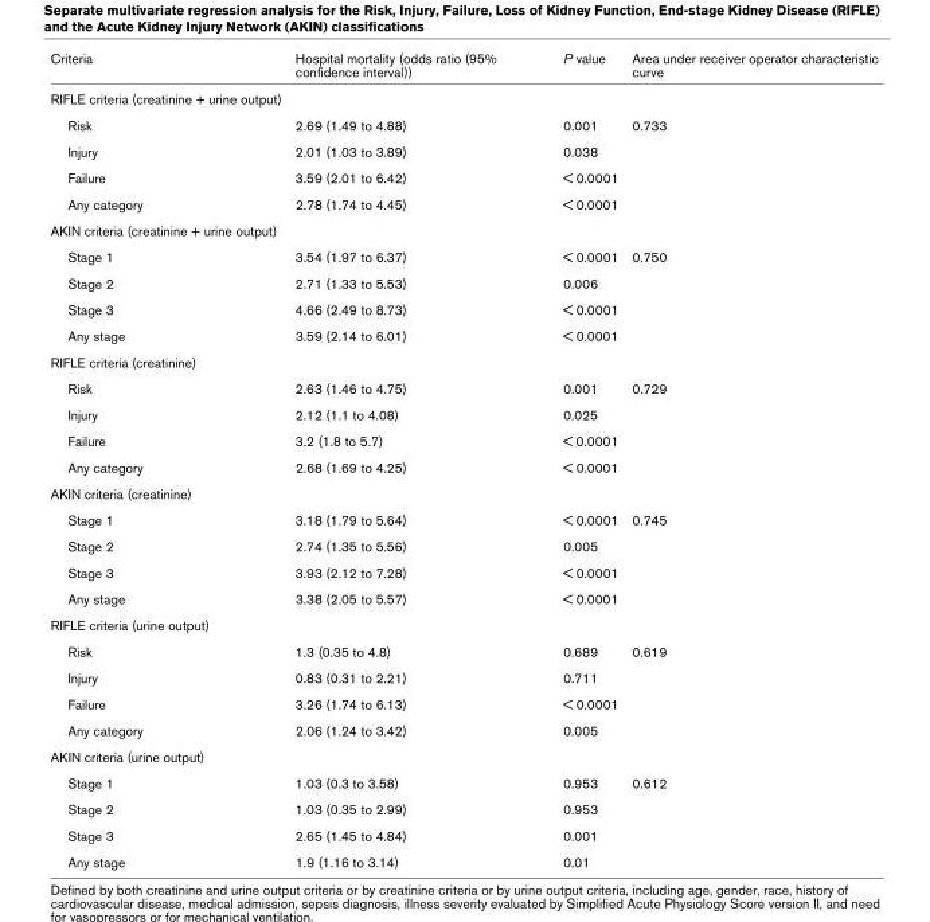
<table><thead><tr><td>Criteria</td><td>Hospital mortality (odds ratio (95% confidence interval))</td><td>P value</td><td>Area under receiver operator characteristic curve</td></tr></thead><tbody><tr><td colspan="4">RIFLE criteria (creatinine + urine output)</td></tr><tr><td>Risk</td><td>2.69 (1.49 to 4.88)</td><td>0.001</td><td>0.733</td></tr><tr><td>Injury</td><td>2.01 (1.03 to 3.89)</td><td>0.038</td><td></td></tr><tr><td>Failure</td><td>3.59 (2.01 to 6.42)</td><td>&lt; 0.0001</td><td></td></tr><tr><td>Any category</td><td>2.78 (1.74 to 4.45)</td><td>&lt; 0.0001</td><td></td></tr><tr><td colspan="4">AKIN criteria (creatinine + urine output)</td></tr><tr><td>Stage 1</td><td>3.54 (1.97 to 6.37)</td><td>&lt; 0.0001</td><td>0.750</td></tr><tr><td>Stage 2</td><td>2.71 (1.33 to 5.53)</td><td>0.006</td><td></td></tr><tr><td>Stage 3</td><td>4.66 (2.49 to 8.73)</td><td>&lt; 0.0001</td><td></td></tr><tr><td>Any stage</td><td>3.59 (2.14 to 6.01)</td><td>&lt; 0.0001</td><td></td></tr><tr><td colspan="4">RIFLE criteria (creatinine)</td></tr><tr><td>Risk</td><td>2.63 (1.46 to 4.75)</td><td>0.001</td><td>0.729</td></tr><tr><td>Injury</td><td>2.12 (1.1 to 4.08)</td><td>0.025</td><td></td></tr><tr><td>Failure</td><td>3.2 (1.8 to 5.7)</td><td>&lt; 0.0001</td><td></td></tr><tr><td>Any category</td><td>2.68 (1.69 to 4.25)</td><td>&lt; 0.0001</td><td></td></tr><tr><td colspan="4">AKIN criteria (creatinine)</td></tr><tr><td>Stage 1</td><td>3.18 (1.79 to 5.64)</td><td>&lt; 0.0001</td><td>0.745</td></tr><tr><td>Stage 2</td><td>2.74 (1.35 to 5.56)</td><td>0.005</td><td></td></tr><tr><td>Stage 3</td><td>3.93 (2.12 to 7.28)</td><td>&lt; 0.0001</td><td></td></tr><tr><td>Any stage</td><td>3.38 (2.05 to 5.57)</td><td>&lt; 0.0001</td><td></td></tr><tr><td colspan="4">RIFLE criteria (urine output)</td></tr><tr><td>Risk</td><td>1.3 (0.35 to 4.8)</td><td>0.689</td><td>0.619</td></tr><tr><td>Injury</td><td>0.83 (0.31 to 2.21)</td><td>0.711</td><td></td></tr><tr><td>Failure</td><td>3.26 (1.74 to 6.13)</td><td>&lt; 0.0001</td><td></td></tr><tr><td>Any category</td><td>2.06 (1.24 to 3.42)</td><td>0.005</td><td></td></tr><tr><td colspan="4">AKIN criteria (urine output)</td></tr><tr><td>Stage 1</td><td>1.03 (0.3 to 3.58)</td><td>0.953</td><td>0.612</td></tr><tr><td>Stage 2</td><td>1.03 (0.35 to 2.99)</td><td>0.953</td><td></td></tr><tr><td>Stage 3</td><td>2.65 (1.45 to 4.84)</td><td>0.001</td><td></td></tr><tr><td>Any stage</td><td>1.9 (1.16 to 3.14)</td><td>0.01</td><td></td></tr></tbody></table>